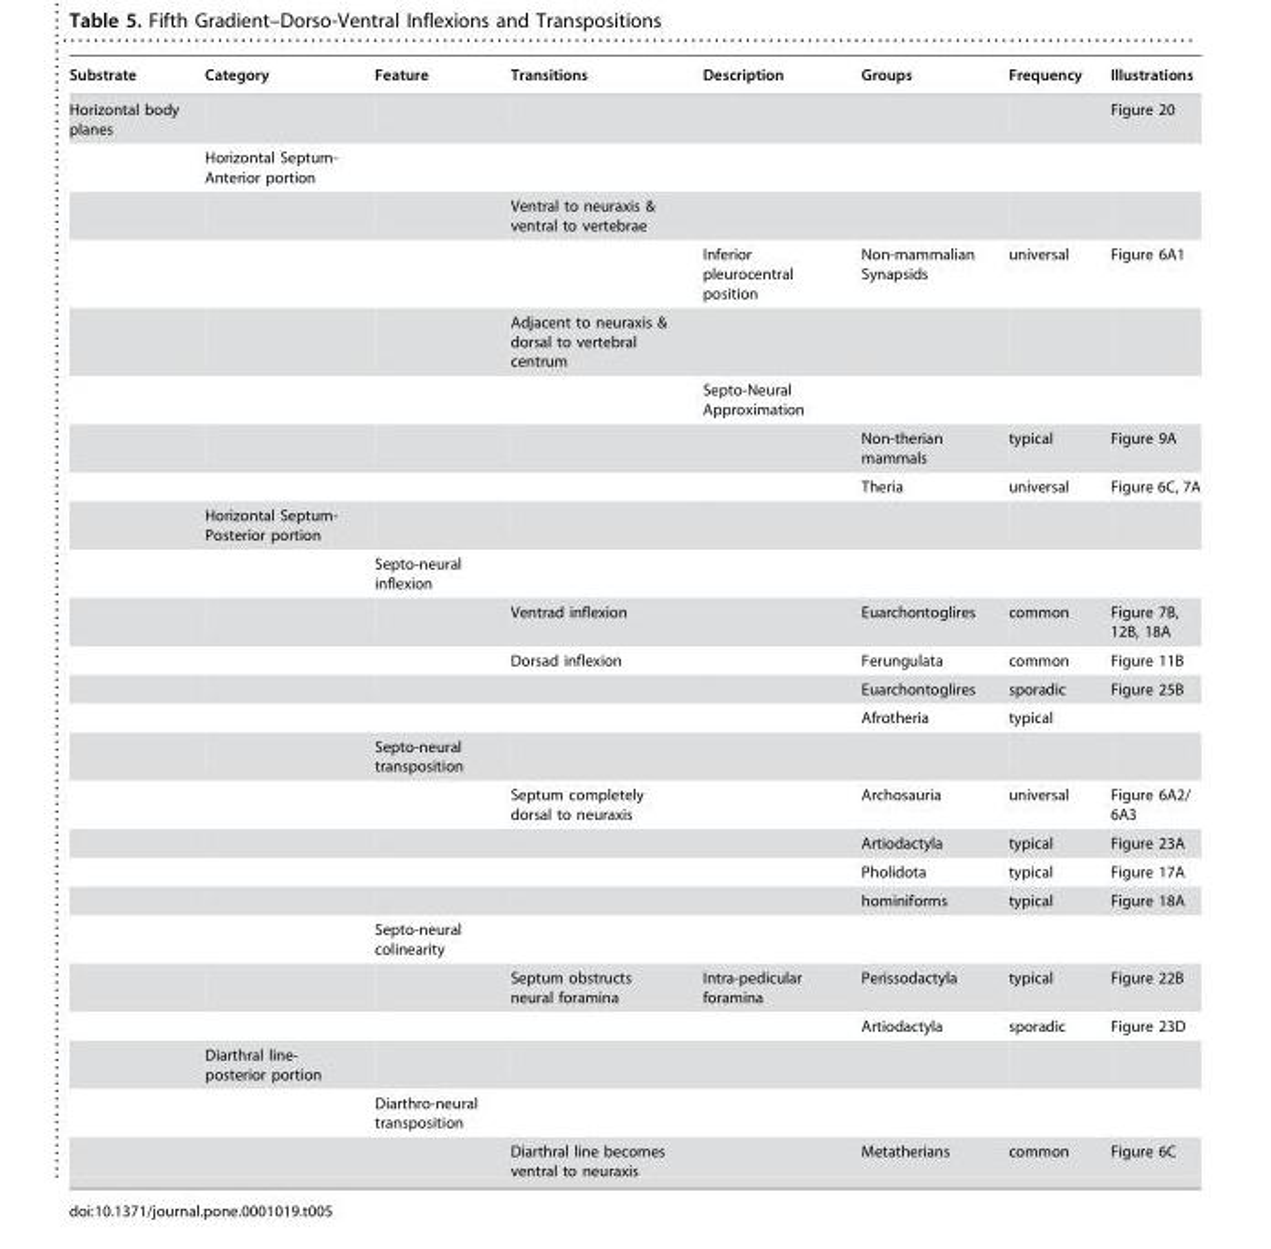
<table><thead><tr><td>Substrate</td><td>Category</td><td>Feature</td><td>Transitions</td><td>Description</td><td>Groups</td><td>Frequency</td><td>Illustrations</td></tr></thead><tbody><tr><td rowspan="25">Horizontal body planes</td><td></td><td></td><td></td><td></td><td></td><td></td><td>Figure 20</td></tr><tr><td>Horizontal Septum- Anterior portion</td><td></td><td></td><td></td><td></td><td></td><td></td></tr><tr><td></td><td></td><td>Ventral to neuraxis &amp; ventral to vertebrae</td><td></td><td></td><td></td><td></td></tr><tr><td></td><td></td><td></td><td>Inferior pleurocentral position</td><td>Non-mammalian Synapsids</td><td>universal</td><td>Figure 6A1</td></tr><tr><td></td><td></td><td>Adjacent to neuraxis &amp; dorsal to vertebral centrum</td><td></td><td></td><td></td><td></td></tr><tr><td></td><td></td><td></td><td>Septo-Neural Approximation</td><td></td><td></td><td></td></tr><tr><td></td><td></td><td></td><td></td><td>Non-therian mammals</td><td>typical</td><td>Figure 9A</td></tr><tr><td></td><td></td><td></td><td></td><td>Theria</td><td>universal</td><td>Figure 6C, 7A</td></tr><tr><td>Horizontal Septum- Posterior portion</td><td></td><td></td><td></td><td></td><td></td><td></td></tr><tr><td></td><td>Septo-neural inflexion</td><td></td><td></td><td></td><td></td><td></td></tr><tr><td></td><td></td><td>Ventrad inflexion</td><td></td><td>Euarchontoglires</td><td>common</td><td>Figure 7B, 12B, 18A</td></tr><tr><td></td><td></td><td>Dorsad inflexion</td><td></td><td>Ferungulata</td><td>common</td><td>Figure 11B</td></tr><tr><td></td><td></td><td></td><td></td><td>Euarchontoglires</td><td>sporadic</td><td>Figure 25B</td></tr><tr><td></td><td></td><td></td><td></td><td>Afrotheria</td><td>typical</td><td></td></tr><tr><td></td><td>Septo-neural transposition</td><td></td><td></td><td></td><td></td><td></td></tr><tr><td></td><td></td><td>Septum completely dorsal to neuraxis</td><td></td><td>Archosauria</td><td>universal</td><td>Figure 6A2/ 6A3</td></tr><tr><td></td><td></td><td></td><td></td><td>Artiodactyla</td><td>typical</td><td>Figure 23A</td></tr><tr><td></td><td></td><td></td><td></td><td>Pholidota</td><td>typical</td><td>Figure 17A</td></tr><tr><td></td><td></td><td></td><td></td><td>hominiforms</td><td>typical</td><td>Figure 18A</td></tr><tr><td></td><td>Septo-neural colinearity</td><td></td><td></td><td></td><td></td><td></td></tr><tr><td></td><td></td><td>Septum obstructs neural foramina</td><td>Intra-pedicular foramina</td><td>Perissodactyla</td><td>typical</td><td>Figure 22B</td></tr><tr><td></td><td></td><td></td><td></td><td>Artiodactyla</td><td>sporadic</td><td>Figure 23D</td></tr><tr><td>Diarthral line- posterior portion</td><td></td><td></td><td></td><td></td><td></td><td></td></tr><tr><td></td><td>Diarthro-neural transposition</td><td></td><td></td><td></td><td></td><td></td></tr><tr><td></td><td></td><td>Diarthral line becomes ventral to neuraxis</td><td></td><td>Metatherians</td><td>common</td><td>Figure 6C</td></tr></tbody></table>